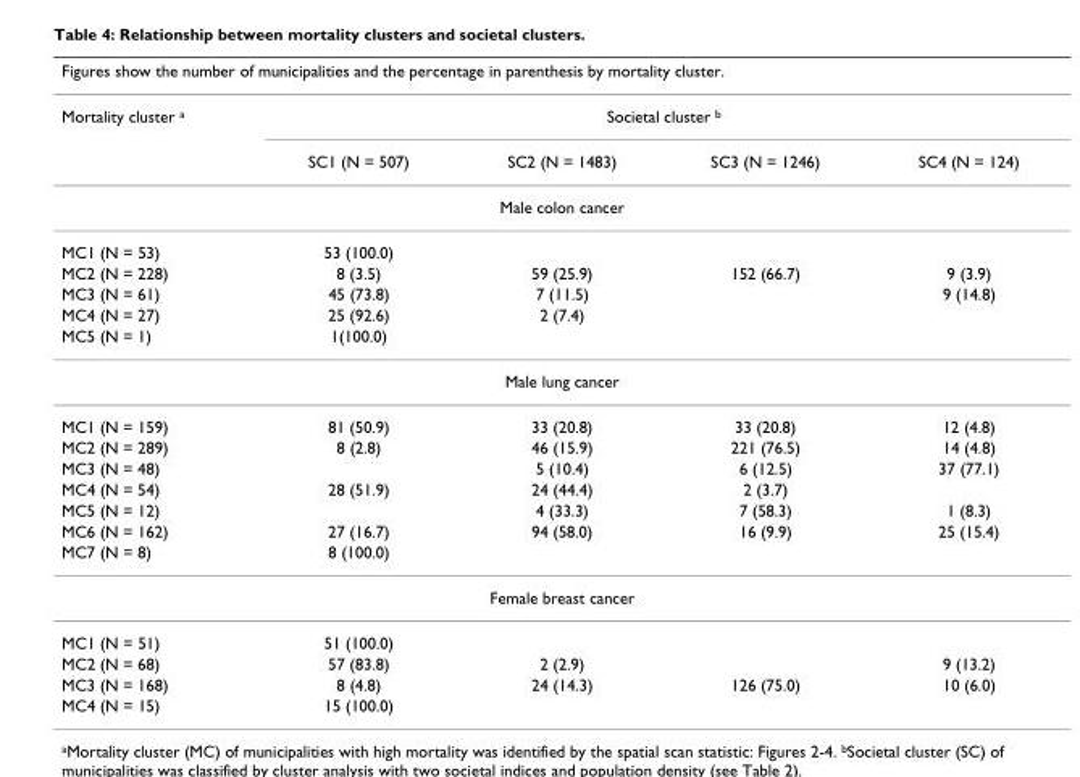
<table><thead><tr><td colspan="5">Figures show the number of municipalities and the percentage in parenthesis by mortality cluster.</td></tr><tr><td rowspan="2">Mortality cluster <sup>a</sup></td><td colspan="4">Societal cluster <sup>b</sup></td></tr><tr><td>SC1 (N = 507)</td><td>SC2 (N = 1483)</td><td>SC3 (N = 1246)</td><td>SC4 (N = 124)</td></tr></thead><tbody><tr><td colspan="5">Male colon cancer</td></tr><tr><td>MC1 (N = 53)</td><td>53 (100.0)</td><td></td><td></td><td></td></tr><tr><td>MC2 (N = 228)</td><td>8 (3.5)</td><td>59 (25.9)</td><td>152 (66.7)</td><td>9 (3.9)</td></tr><tr><td>MC3 (N = 61)</td><td>45 (73.8)</td><td>7 (11.5)</td><td></td><td>9 (14.8)</td></tr><tr><td>MC4 (N = 27)</td><td>25 (92.6)</td><td>2 (7.4)</td><td></td><td></td></tr><tr><td>MC5 (N = 1)</td><td>1(100.0)</td><td></td><td></td><td></td></tr><tr><td colspan="5">Male lung cancer</td></tr><tr><td>MC1 (N = 159)</td><td>81 (50.9)</td><td>33 (20.8)</td><td>33 (20.8)</td><td>12 (4.8)</td></tr><tr><td>MC2 (N = 289)</td><td>8 (2.8)</td><td>46 (15.9)</td><td>221 (76.5)</td><td>14 (4.8)</td></tr><tr><td>MC3 (N = 48)</td><td></td><td>5 (10.4)</td><td>6 (12.5)</td><td>37 (77.1)</td></tr><tr><td>MC4 (N = 54)</td><td>28 (51.9)</td><td>24 (44.4)</td><td>2 (3.7)</td><td></td></tr><tr><td>MC5 (N = 12)</td><td></td><td>4 (33.3)</td><td>7 (58.3)</td><td>1 (8.3)</td></tr><tr><td>MC6 (N = 162)</td><td>27 (16.7)</td><td>94 (58.0)</td><td>16 (9.9)</td><td>25 (15.4)</td></tr><tr><td>MC7 (N = 8)</td><td>8 (100.0)</td><td></td><td></td><td></td></tr><tr><td colspan="5">Female breast cancer</td></tr><tr><td>MC1 (N = 51)</td><td>51 (100.0)</td><td></td><td></td><td></td></tr><tr><td>MC2 (N = 68)</td><td>57 (83.8)</td><td>2 (2.9)</td><td></td><td>9 (13.2)</td></tr><tr><td>MC3 (N = 168)</td><td>8 (4.8)</td><td>24 (14.3)</td><td>126 (75.0)</td><td>10 (6.0)</td></tr><tr><td>MC4 (N = 15)</td><td>15 (100.0)</td><td></td><td></td><td></td></tr></tbody></table>